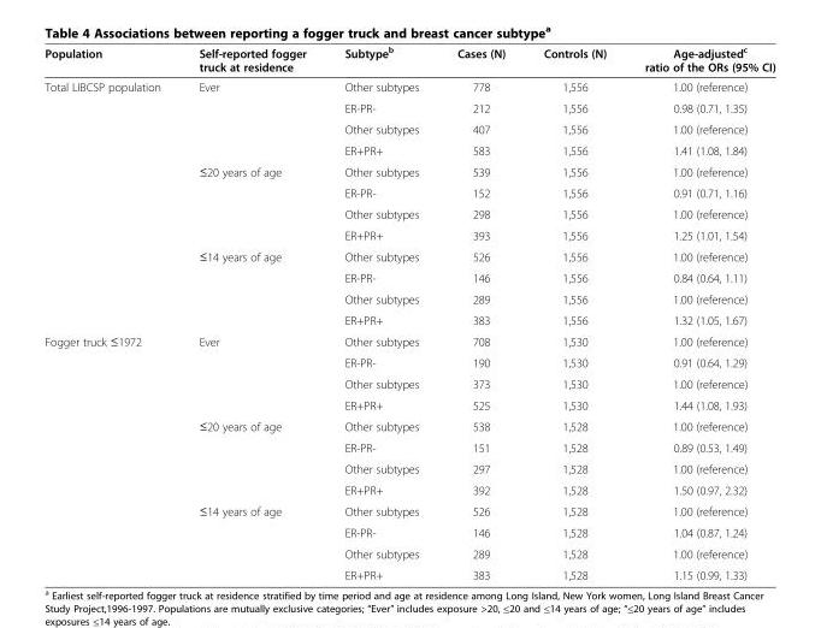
<table><thead><tr><td>Population</td><td>Self-reported fogger truck at residence</td><td>Subtype<sup>b</sup></td><td>Cases (N)</td><td>Controls (N)</td><td>Age-adjusted<sup>c</sup> ratio of the ORs (95% CI)</td></tr></thead><tbody><tr><td rowspan="12">Total LIBCSP population</td><td>Ever</td><td>Other subtypes</td><td>778</td><td>1,556</td><td>1.00 (reference)</td></tr><tr><td></td><td>ER-PR-</td><td>212</td><td>1,556</td><td>0.98 (0.71, 1.35)</td></tr><tr><td></td><td>Other subtypes</td><td>407</td><td>1,556</td><td>1.00 (reference)</td></tr><tr><td></td><td>ER+PR+</td><td>583</td><td>1,556</td><td>1.41 (1.08, 1.84)</td></tr><tr><td>≤20 years of age</td><td>Other subtypes</td><td>539</td><td>1,556</td><td>1.00 (reference)</td></tr><tr><td></td><td>ER-PR-</td><td>152</td><td>1,556</td><td>0.91 (0.71, 1.16)</td></tr><tr><td></td><td>Other subtypes</td><td>298</td><td>1,556</td><td>1.00 (reference)</td></tr><tr><td></td><td>ER+PR+</td><td>393</td><td>1,556</td><td>1.25 (1.01, 1.54)</td></tr><tr><td>≤14 years of age</td><td>Other subtypes</td><td>526</td><td>1,556</td><td>1.00 (reference)</td></tr><tr><td></td><td>ER-PR-</td><td>146</td><td>1,556</td><td>0.84 (0.64, 1.11)</td></tr><tr><td></td><td>Other subtypes</td><td>289</td><td>1,556</td><td>1.00 (reference)</td></tr><tr><td></td><td>ER+PR+</td><td>383</td><td>1,556</td><td>1.32 (1.05, 1.67)</td></tr><tr><td rowspan="12">Fogger truck ≤1972</td><td>Ever</td><td>Other subtypes</td><td>708</td><td>1,530</td><td>1.00 (reference)</td></tr><tr><td></td><td>ER-PR-</td><td>190</td><td>1,530</td><td>0.91 (0.64, 1.29)</td></tr><tr><td></td><td>Other subtypes</td><td>373</td><td>1,530</td><td>1.00 (reference)</td></tr><tr><td></td><td>ER+PR+</td><td>525</td><td>1,530</td><td>1.44 (1.08, 1.93)</td></tr><tr><td>≤20 years of age</td><td>Other subtypes</td><td>538</td><td>1,528</td><td>1.00 (reference)</td></tr><tr><td></td><td>ER-PR-</td><td>151</td><td>1,528</td><td>0.89 (0.53, 1.49)</td></tr><tr><td></td><td>Other subtypes</td><td>297</td><td>1,528</td><td>1.00 (reference)</td></tr><tr><td></td><td>ER+PR+</td><td>392</td><td>1,528</td><td>1.50 (0.97, 2.32)</td></tr><tr><td>≤14 years of age</td><td>Other subtypes</td><td>526</td><td>1,528</td><td>1.00 (reference)</td></tr><tr><td></td><td>ER-PR-</td><td>146</td><td>1,528</td><td>1.04 (0.87, 1.24)</td></tr><tr><td></td><td>Other subtypes</td><td>289</td><td>1,528</td><td>1.00 (reference)</td></tr><tr><td></td><td>ER+PR+</td><td>383</td><td>1,528</td><td>1.15 (0.99, 1.33)</td></tr></tbody></table>